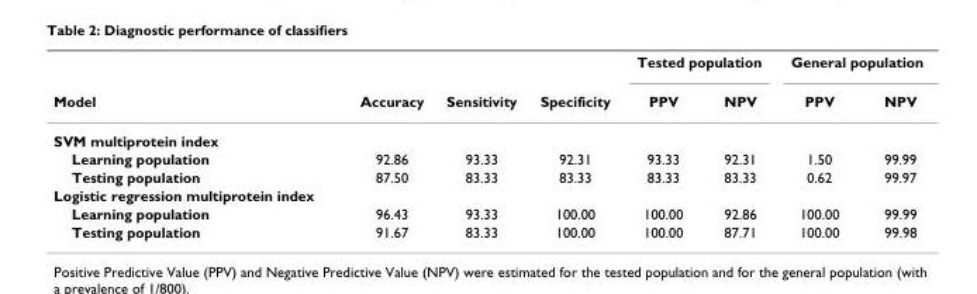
<table><thead><tr><td rowspan="2">Model</td><td rowspan="2">Accuracy</td><td rowspan="2">Sensitivity</td><td rowspan="2">Specificity</td><td colspan="2">Tested population</td><td colspan="2">General population</td></tr><tr><td>PPV</td><td>NPV</td><td>PPV</td><td>NPV</td></tr></thead><tbody><tr><td colspan="8">SVM multiprotein index</td></tr><tr><td>Learning population</td><td>92.86</td><td>93.33</td><td>92.31</td><td>93.33</td><td>92.31</td><td>1.50</td><td>99.99</td></tr><tr><td>Testing population</td><td>87.50</td><td>83.33</td><td>83.33</td><td>83.33</td><td>83.33</td><td>0.62</td><td>99.97</td></tr><tr><td colspan="8">Logistic regression multiprotein index</td></tr><tr><td>Learning population</td><td>96.43</td><td>93.33</td><td>100.00</td><td>100.00</td><td>92.86</td><td>100.00</td><td>99.99</td></tr><tr><td>Testing population</td><td>91.67</td><td>83.33</td><td>100.00</td><td>100.00</td><td>87.71</td><td>100.00</td><td>99.98</td></tr></tbody></table>